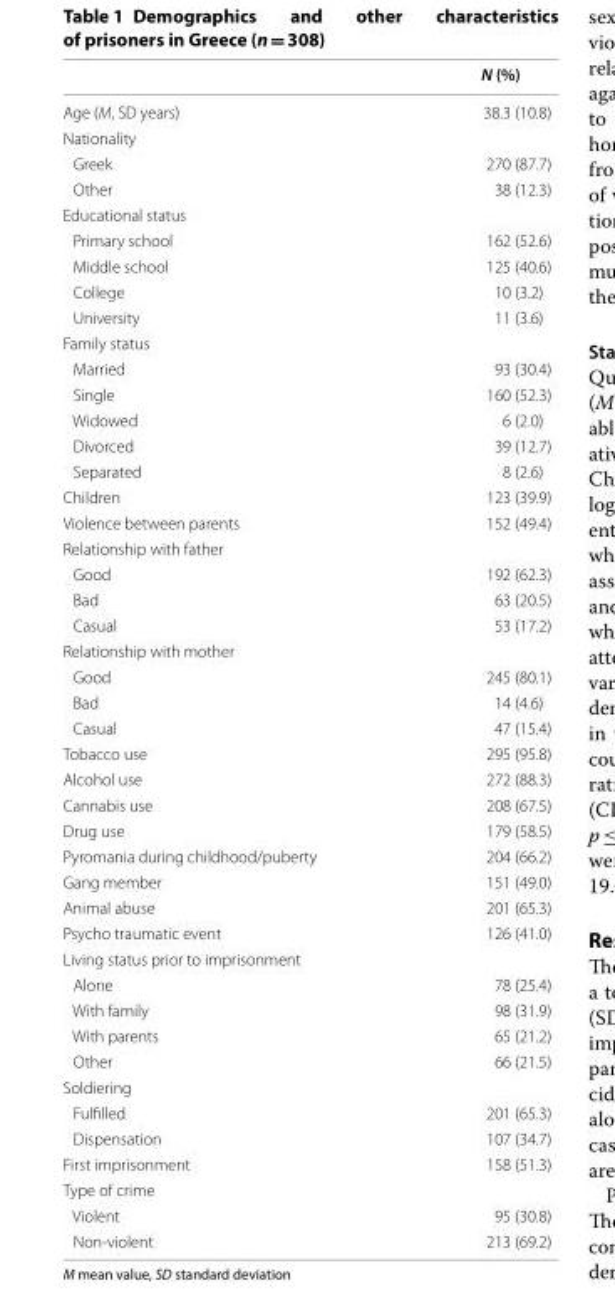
<table><thead><tr><td></td><td>N (%)</td></tr></thead><tbody><tr><td>Age (M, SD years)</td><td>38.3 (10.8)</td></tr><tr><td colspan="2">Nationality</td></tr><tr><td>Greek</td><td>270 (87.7)</td></tr><tr><td>Other</td><td>38 (12.3)</td></tr><tr><td colspan="2">Educational status</td></tr><tr><td>Primary school</td><td>162 (52.6)</td></tr><tr><td>Middle school</td><td>125 (40.6)</td></tr><tr><td>College</td><td>10 (3.2)</td></tr><tr><td>University</td><td>11 (3.6)</td></tr><tr><td colspan="2">Family status</td></tr><tr><td>Married</td><td>93 (30.4)</td></tr><tr><td>Single</td><td>160 (52.3)</td></tr><tr><td>Widowed</td><td>6 (2.0)</td></tr><tr><td>Divorced</td><td>39 (12.7)</td></tr><tr><td>Separated</td><td>8 (2.6)</td></tr><tr><td>Children</td><td>123 (39.9)</td></tr><tr><td>Violence between parents</td><td>152 (49.4)</td></tr><tr><td colspan="2">Relationship with father</td></tr><tr><td>Good</td><td>192 (62.3)</td></tr><tr><td>Bad</td><td>63 (20.5)</td></tr><tr><td>Casual</td><td>53 (17.2)</td></tr><tr><td colspan="2">Relationship with mother</td></tr><tr><td>Good</td><td>245 (80.1)</td></tr><tr><td>Bad</td><td>14 (4.6)</td></tr><tr><td>Casual</td><td>47 (15.4)</td></tr><tr><td>Tobacco use</td><td>295 (95.8)</td></tr><tr><td>Alcohol use</td><td>272 (88.3)</td></tr><tr><td>Cannabis use</td><td>208 (67.5)</td></tr><tr><td>Drug use</td><td>179 (58.5)</td></tr><tr><td>Pyromania during childhood/puberty</td><td>204 (66.2)</td></tr><tr><td>Gang member</td><td>151 (49.0)</td></tr><tr><td>Animal abuse</td><td>201 (65.3)</td></tr><tr><td>Psycho traumatic event</td><td>126 (41.0)</td></tr><tr><td colspan="2">Living status prior to imprisonment</td></tr><tr><td>Alone</td><td>78 (25.4)</td></tr><tr><td>With family</td><td>98 (31.9)</td></tr><tr><td>With parents</td><td>65 (21.2)</td></tr><tr><td>Other</td><td>66 (21.5)</td></tr><tr><td colspan="2">Soldiering</td></tr><tr><td>Fulfilled</td><td>201 (65.3)</td></tr><tr><td>Dispensation</td><td>107 (34.7)</td></tr><tr><td>First imprisonment</td><td>158 (51.3)</td></tr><tr><td colspan="2">Type of crime</td></tr><tr><td>Violent</td><td>95 (30.8)</td></tr><tr><td>Non-violent</td><td>213 (69.2)</td></tr></tbody></table>